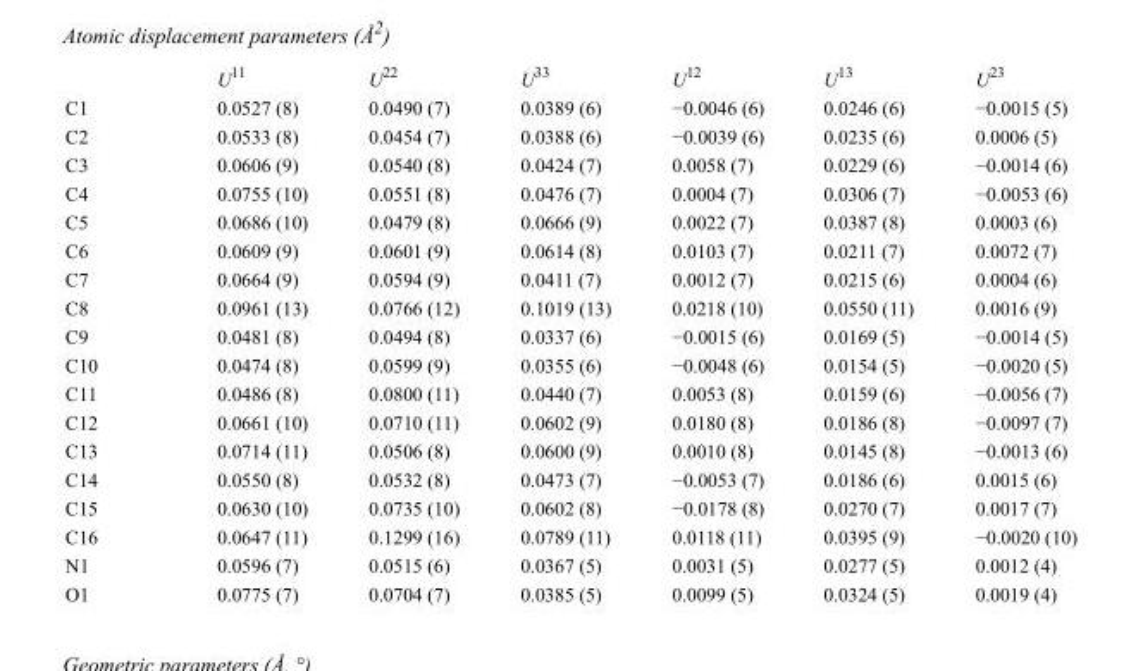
<table><thead><tr><td></td><td>U<sup>11</sup></td><td>U<sup>22</sup></td><td>U<sup>33</sup></td><td>U<sup>12</sup></td><td>U<sup>13</sup></td><td>U<sup>23</sup></td></tr></thead><tbody><tr><td>C1</td><td>0.0527 (8)</td><td>0.0490 (7)</td><td>0.0389 (6)</td><td>−0.0046 (6)</td><td>0.0246 (6)</td><td>−0.0015 (5)</td></tr><tr><td>C2</td><td>0.0533 (8)</td><td>0.0454 (7)</td><td>0.0388 (6)</td><td>−0.0039 (6)</td><td>0.0235 (6)</td><td>0.0006 (5)</td></tr><tr><td>C3</td><td>0.0606 (9)</td><td>0.0540 (8)</td><td>0.0424 (7)</td><td>0.0058 (7)</td><td>0.0229 (6)</td><td>−0.0014 (6)</td></tr><tr><td>C4</td><td>0.0755 (10)</td><td>0.0551 (8)</td><td>0.0476 (7)</td><td>0.0004 (7)</td><td>0.0306 (7)</td><td>−0.0053 (6)</td></tr><tr><td>C5</td><td>0.0686 (10)</td><td>0.0479 (8)</td><td>0.0666 (9)</td><td>0.0022 (7)</td><td>0.0387 (8)</td><td>0.0003 (6)</td></tr><tr><td>C6</td><td>0.0609 (9)</td><td>0.0601 (9)</td><td>0.0614 (8)</td><td>0.0103 (7)</td><td>0.0211 (7)</td><td>0.0072 (7)</td></tr><tr><td>C7</td><td>0.0664 (9)</td><td>0.0594 (9)</td><td>0.0411 (7)</td><td>0.0012 (7)</td><td>0.0215 (6)</td><td>0.0004 (6)</td></tr><tr><td>C8</td><td>0.0961 (13)</td><td>0.0766 (12)</td><td>0.1019 (13)</td><td>0.0218 (10)</td><td>0.0550 (11)</td><td>0.0016 (9)</td></tr><tr><td>C9</td><td>0.0481 (8)</td><td>0.0494 (8)</td><td>0.0337 (6)</td><td>−0.0015 (6)</td><td>0.0169 (5)</td><td>−0.0014 (5)</td></tr><tr><td>C10</td><td>0.0474 (8)</td><td>0.0599 (9)</td><td>0.0355 (6)</td><td>−0.0048 (6)</td><td>0.0154 (5)</td><td>−0.0020 (5)</td></tr><tr><td>C11</td><td>0.0486 (8)</td><td>0.0800 (11)</td><td>0.0440 (7)</td><td>0.0053 (8)</td><td>0.0159 (6)</td><td>−0.0056 (7)</td></tr><tr><td>C12</td><td>0.0661 (10)</td><td>0.0710 (11)</td><td>0.0602 (9)</td><td>0.0180 (8)</td><td>0.0186 (8)</td><td>−0.0097 (7)</td></tr><tr><td>C13</td><td>0.0714 (11)</td><td>0.0506 (8)</td><td>0.0600 (9)</td><td>0.0010 (8)</td><td>0.0145 (8)</td><td>−0.0013 (6)</td></tr><tr><td>C14</td><td>0.0550 (8)</td><td>0.0532 (8)</td><td>0.0473 (7)</td><td>−0.0053 (7)</td><td>0.0186 (6)</td><td>0.0015 (6)</td></tr><tr><td>C15</td><td>0.0630 (10)</td><td>0.0735 (10)</td><td>0.0602 (8)</td><td>−0.0178 (8)</td><td>0.0270 (7)</td><td>0.0017 (7)</td></tr><tr><td>C16</td><td>0.0647 (11)</td><td>0.1299 (16)</td><td>0.0789 (11)</td><td>0.0118 (11)</td><td>0.0395 (9)</td><td>−0.0020 (10)</td></tr><tr><td>N1</td><td>0.0596 (7)</td><td>0.0515 (6)</td><td>0.0367 (5)</td><td>0.0031 (5)</td><td>0.0277 (5)</td><td>0.0012 (4)</td></tr><tr><td>O1</td><td>0.0775 (7)</td><td>0.0704 (7)</td><td>0.0385 (5)</td><td>0.0099 (5)</td><td>0.0324 (5)</td><td>0.0019 (4)</td></tr></tbody></table>